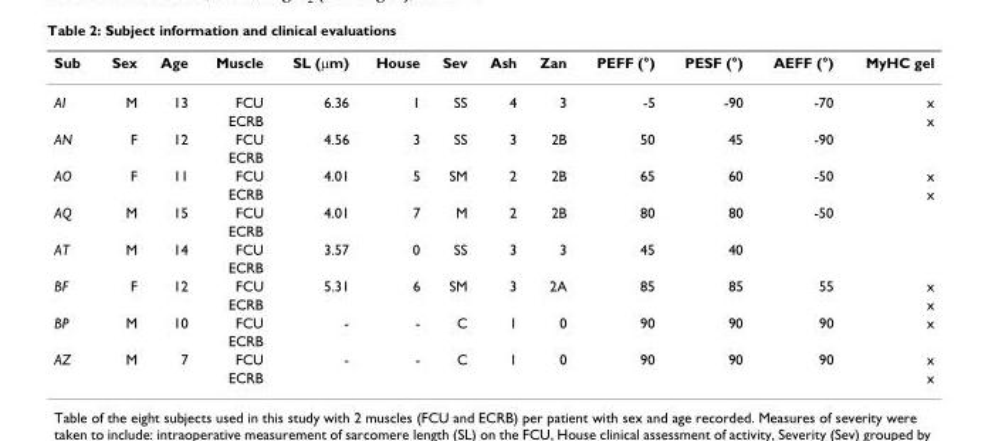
<table><thead><tr><td>Sub</td><td>Sex</td><td>Age</td><td>Muscle</td><td>SL (μm)</td><td>House</td><td>Sev</td><td>Ash</td><td>Zan</td><td>PEFF (°)</td><td>PESF (°)</td><td>AEFF (°)</td><td>MyHC gel</td></tr></thead><tbody><tr><td rowspan="2">AI</td><td>M</td><td>13</td><td>FCU</td><td>6.36</td><td>1</td><td>SS</td><td>4</td><td>3</td><td>-5</td><td>-90</td><td>-70</td><td>x</td></tr><tr><td></td><td></td><td>ECRB</td><td></td><td></td><td></td><td></td><td></td><td></td><td></td><td></td><td>x</td></tr><tr><td rowspan="2">AN</td><td>F</td><td>12</td><td>FCU</td><td>4.56</td><td>3</td><td>SS</td><td>3</td><td>2B</td><td>50</td><td>45</td><td>-90</td><td></td></tr><tr><td></td><td></td><td>ECRB</td><td></td><td></td><td></td><td></td><td></td><td></td><td></td><td></td><td></td></tr><tr><td rowspan="2">AO</td><td>F</td><td>11</td><td>FCU</td><td>4.01</td><td>5</td><td>SM</td><td>2</td><td>2B</td><td>65</td><td>60</td><td>-50</td><td>x</td></tr><tr><td></td><td></td><td>ECRB</td><td></td><td></td><td></td><td></td><td></td><td></td><td></td><td></td><td>x</td></tr><tr><td rowspan="2">AQ</td><td>M</td><td>15</td><td>FCU</td><td>4.01</td><td>7</td><td>M</td><td>2</td><td>2B</td><td>80</td><td>80</td><td>-50</td><td></td></tr><tr><td></td><td></td><td>ECRB</td><td></td><td></td><td></td><td></td><td></td><td></td><td></td><td></td><td></td></tr><tr><td rowspan="2">AT</td><td>M</td><td>14</td><td>FCU</td><td>3.57</td><td>0</td><td>SS</td><td>3</td><td>3</td><td>45</td><td>40</td><td></td><td></td></tr><tr><td></td><td></td><td>ECRB</td><td></td><td></td><td></td><td></td><td></td><td></td><td></td><td></td><td></td></tr><tr><td rowspan="2">BF</td><td>F</td><td>12</td><td>FCU</td><td>5.31</td><td>6</td><td>SM</td><td>3</td><td>2A</td><td>85</td><td>85</td><td>55</td><td>x</td></tr><tr><td></td><td></td><td>ECRB</td><td></td><td></td><td></td><td></td><td></td><td></td><td></td><td></td><td>x</td></tr><tr><td rowspan="2">BP</td><td>M</td><td>10</td><td>FCU</td><td>-</td><td>-</td><td>C</td><td>1</td><td>0</td><td>90</td><td>90</td><td>90</td><td>x</td></tr><tr><td></td><td></td><td>ECRB</td><td></td><td></td><td></td><td></td><td></td><td></td><td></td><td></td><td></td></tr><tr><td rowspan="2">AZ</td><td>M</td><td>7</td><td>FCU</td><td>-</td><td>-</td><td>C</td><td>1</td><td>0</td><td>90</td><td>90</td><td>90</td><td>x</td></tr><tr><td></td><td></td><td>ECRB</td><td></td><td></td><td></td><td></td><td></td><td></td><td></td><td></td><td>x</td></tr></tbody></table>